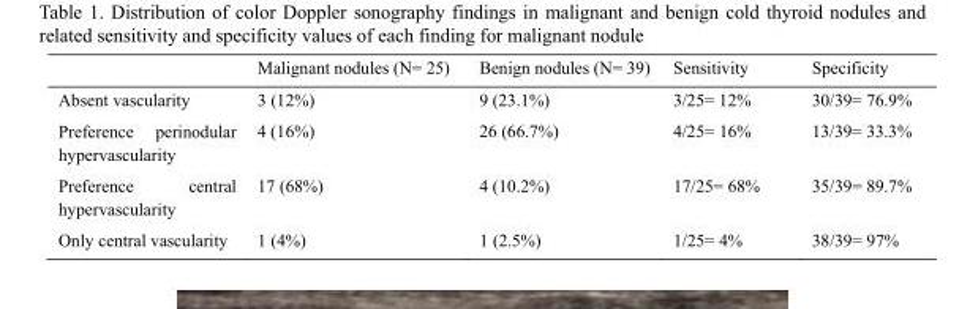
<table><thead><tr><td></td><td>Malignant nodules (N= 25)</td><td>Benign nodules (N= 39)</td><td>Sensitivity</td><td>Specificity</td></tr></thead><tbody><tr><td>Absent vascularity</td><td>3 (12%)</td><td>9 (23.1%)</td><td>3/25= 12%</td><td>30/39= 76.9%</td></tr><tr><td>Preference perinodular hypervascularity</td><td>4 (16%)</td><td>26 (66.7%)</td><td>4/25= 16%</td><td>13/39= 33.3%</td></tr><tr><td>Preference central hypervascularity</td><td>17 (68%)</td><td>4 (10.2%)</td><td>17/25= 68%</td><td>35/39= 89.7%</td></tr><tr><td>Only central vascularity</td><td>1 (4%)</td><td>1 (2.5%)</td><td>1/25= 4%</td><td>38/39= 97%</td></tr></tbody></table>